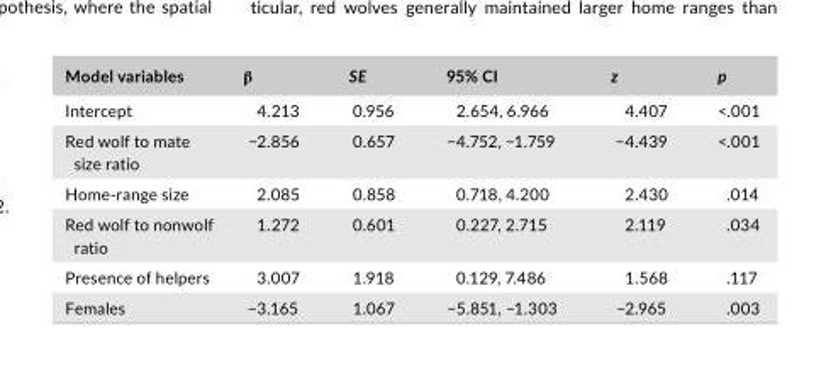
<table><thead><tr><td>Model variables</td><td>β</td><td>SE</td><td>95% CI</td><td>z</td><td>p</td></tr></thead><tbody><tr><td>Intercept</td><td>4.213</td><td>0.956</td><td>2.654, 6.966</td><td>4.407</td><td>&lt;.001</td></tr><tr><td>Red wolf to mate size ratio</td><td>−2.856</td><td>0.657</td><td>−4.752, −1.759</td><td>−4.439</td><td>&lt;.001</td></tr><tr><td>Home- range size</td><td>2.085</td><td>0.858</td><td>0.718, 4.200</td><td>2.430</td><td>.014</td></tr><tr><td>Red wolf to nonwolf ratio</td><td>1.272</td><td>0.601</td><td>0.227, 2.715</td><td>2.119</td><td>.034</td></tr><tr><td>Presence of helpers</td><td>3.007</td><td>1.918</td><td>0.129, 7.486</td><td>1.568</td><td>.117</td></tr><tr><td>Females</td><td>−3.165</td><td>1.067</td><td>−5.851, −1.303</td><td>−2.965</td><td>.003</td></tr></tbody></table>